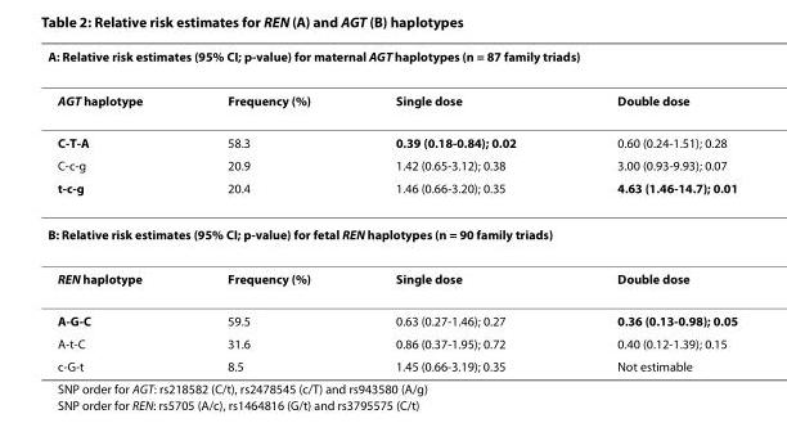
<table><thead><tr><td colspan="4">A: Relative risk estimates (95% CI; p-value) for maternal AGT haplotypes (n = 87 family triads)</td></tr><tr><td>AGT haplotype</td><td>Frequency (%)</td><td>Single dose</td><td>Double dose</td></tr></thead><tbody><tr><td>C-T-A</td><td>58.3</td><td>0.39 (0.18-0.84); 0.02</td><td>0.60 (0.24-1.51); 0.28</td></tr><tr><td>C-c-g</td><td>20.9</td><td>1.42 (0.65-3.12); 0.38</td><td>3.00 (0.93-9.93); 0.07</td></tr><tr><td>t-c-g</td><td>20.4</td><td>1.46 (0.66-3.20); 0.35</td><td>4.63 (1.46-14.7); 0.01</td></tr><tr><td colspan="4">B: Relative risk estimates (95% CI; p-value) for fetal REN haplotypes (n = 90 family triads)</td></tr><tr><td>REN haplotype</td><td>Frequency (%)</td><td>Single dose</td><td>Double dose</td></tr><tr><td>A-G-C</td><td>59.5</td><td>0.63 (0.27-1.46); 0.27</td><td>0.36 (0.13-0.98); 0.05</td></tr><tr><td>A-t-C</td><td>31.6</td><td>0.86 (0.37-1.95); 0.72</td><td>0.40 (0.12-1.39); 0.15</td></tr><tr><td>c-G-t</td><td>8.5</td><td>1.45 (0.66-3.19); 0.35</td><td>Not estimable</td></tr></tbody></table>